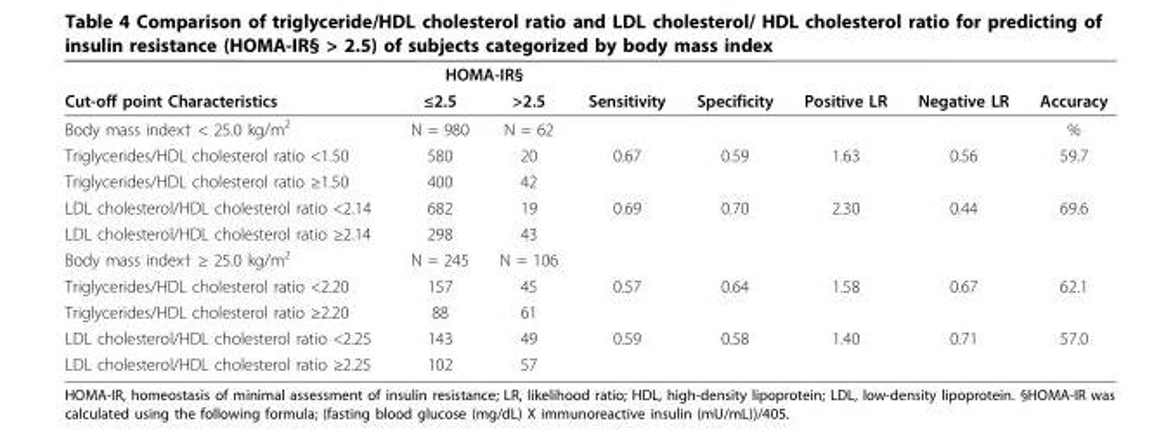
<table><thead><tr><td rowspan="2">Cut-off point Characteristics</td><td colspan="2">HOMA-IR§</td><td rowspan="2">Sensitivity</td><td rowspan="2">Specificity</td><td rowspan="2">Positive LR</td><td rowspan="2">Negative LR</td><td rowspan="2">Accuracy</td></tr><tr><td>≤2.5</td><td>&gt;2.5</td></tr></thead><tbody><tr><td>Body mass index† &lt; 25.0 kg/m<sup>2</sup></td><td>N = 980</td><td>N = 62</td><td></td><td></td><td></td><td></td><td>%</td></tr><tr><td>Triglycerides/HDL cholesterol ratio &lt;1.50</td><td>580</td><td>20</td><td>0.67</td><td>0.59</td><td>1.63</td><td>0.56</td><td>59.7</td></tr><tr><td>Triglycerides/HDL cholesterol ratio ≥1.50</td><td>400</td><td>42</td><td></td><td></td><td></td><td></td><td></td></tr><tr><td>LDL cholesterol/HDL cholesterol ratio &lt;2.14</td><td>682</td><td>19</td><td>0.69</td><td>0.70</td><td>2.30</td><td>0.44</td><td>69.6</td></tr><tr><td>LDL cholesterol/HDL cholesterol ratio ≥2.14</td><td>298</td><td>43</td><td></td><td></td><td></td><td></td><td></td></tr><tr><td>Body mass index† ≥ 25.0 kg/m<sup>2</sup></td><td>N = 245</td><td>N = 106</td><td></td><td></td><td></td><td></td><td></td></tr><tr><td>Triglycerides/HDL cholesterol ratio &lt;2.20</td><td>157</td><td>45</td><td>0.57</td><td>0.64</td><td>1.58</td><td>0.67</td><td>62.1</td></tr><tr><td>Triglycerides/HDL cholesterol ratio ≥2.20</td><td>88</td><td>61</td><td></td><td></td><td></td><td></td><td></td></tr><tr><td>LDL cholesterol/HDL cholesterol ratio &lt;2.25</td><td>143</td><td>49</td><td>0.59</td><td>0.58</td><td>1.40</td><td>0.71</td><td>57.0</td></tr><tr><td>LDL cholesterol/HDL cholesterol ratio ≥2.25</td><td>102</td><td>57</td><td></td><td></td><td></td><td></td><td></td></tr></tbody></table>